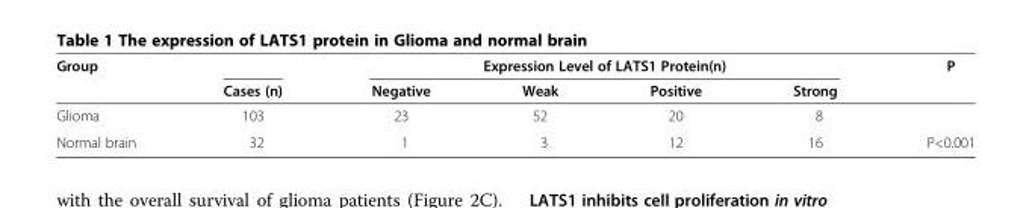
<table><thead><tr><td rowspan="2">Group</td><td rowspan="2">Cases (n)</td><td colspan="4">Expression Level of LATS1 Protein(n)</td><td rowspan="2">P</td></tr><tr><td>Negative</td><td>Weak</td><td>Positive</td><td>Strong</td></tr></thead><tbody><tr><td>Glioma</td><td>103</td><td>23</td><td>52</td><td>20</td><td>8</td><td></td></tr><tr><td>Normal brain</td><td>32</td><td>1</td><td>3</td><td>12</td><td>16</td><td>P&lt;0.001</td></tr></tbody></table>